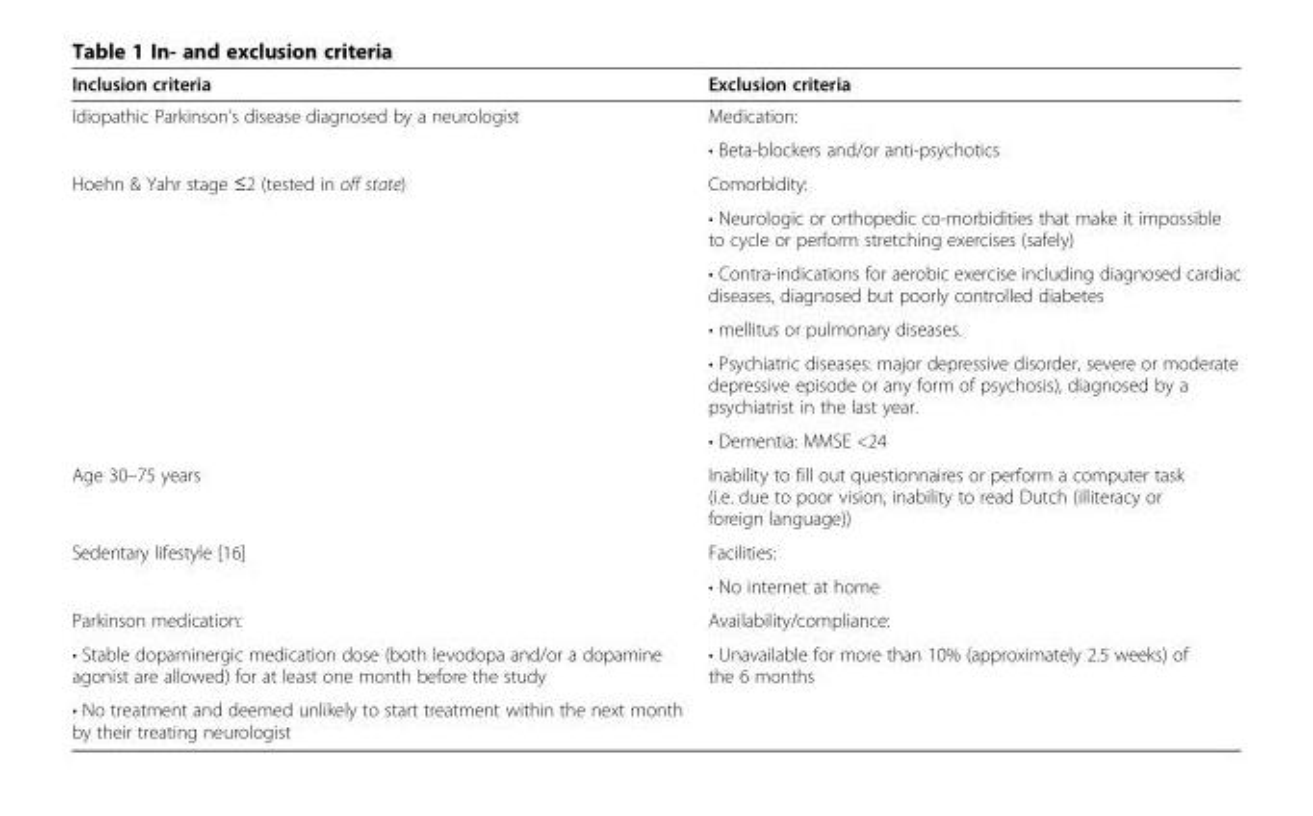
<table><thead><tr><td>Inclusion criteria</td><td>Exclusion criteria</td></tr></thead><tbody><tr><td rowspan="2">Idiopathic Parkinson’s disease diagnosed by a neurologist</td><td>Medication:</td></tr><tr><td>• Beta-blockers and/or anti-psychotics</td></tr><tr><td rowspan="6">Hoehn &amp; Yahr stage ≤2 (tested in off state)</td><td>Comorbidity:</td></tr><tr><td>• Neurologic or orthopedic co-morbidities that make it impossible to cycle or perform stretching exercises (safely)</td></tr><tr><td>• Contra-indications for aerobic exercise including diagnosed cardiac diseases, diagnosed but poorly controlled diabetes</td></tr><tr><td>• mellitus or pulmonary diseases.</td></tr><tr><td>• Psychiatric diseases: major depressive disorder, severe or moderate depressive episode or any form of psychosis), diagnosed by a psychiatrist in the last year.</td></tr><tr><td>• Dementia: MMSE &lt;24</td></tr><tr><td>Age 30–75 years</td><td>Inability to fill out questionnaires or perform a computer task (i.e. due to poor vision, inability to read Dutch (illiteracy or foreign language))</td></tr><tr><td rowspan="2">Sedentary lifestyle [16]</td><td>Facilities:</td></tr><tr><td>• No internet at home</td></tr><tr><td>Parkinson medication:</td><td>Availability/compliance:</td></tr><tr><td>• Stable dopaminergic medication dose (both levodopa and/or a dopamine agonist are allowed) for at least one month before the study</td><td rowspan="2">• Unavailable for more than 10% (approximately 2.5 weeks) of the 6 months</td></tr><tr><td>• No treatment and deemed unlikely to start treatment within the next month by their treating neurologist</td></tr></tbody></table>